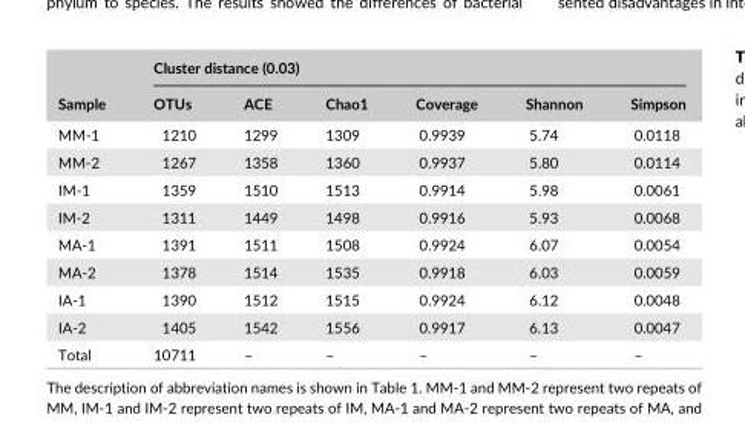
<table><thead><tr><td rowspan="2">Sample</td><td colspan="6">Cluster distance (0.03)</td></tr><tr><td>OTUs</td><td>ACE</td><td>Chao1</td><td>Coverage</td><td>Shannon</td><td>Simpson</td></tr></thead><tbody><tr><td>MM- 1</td><td>1210</td><td>1299</td><td>1309</td><td>0.9939</td><td>5.74</td><td>0.0118</td></tr><tr><td>MM- 2</td><td>1267</td><td>1358</td><td>1360</td><td>0.9937</td><td>5.80</td><td>0.0114</td></tr><tr><td>IM- 1</td><td>1359</td><td>1510</td><td>1513</td><td>0.9914</td><td>5.98</td><td>0.0061</td></tr><tr><td>IM- 2</td><td>1311</td><td>1449</td><td>1498</td><td>0.9916</td><td>5.93</td><td>0.0068</td></tr><tr><td>MA- 1</td><td>1391</td><td>1511</td><td>1508</td><td>0.9924</td><td>6.07</td><td>0.0054</td></tr><tr><td>MA- 2</td><td>1378</td><td>1514</td><td>1535</td><td>0.9918</td><td>6.03</td><td>0.0059</td></tr><tr><td>IA- 1</td><td>1390</td><td>1512</td><td>1515</td><td>0.9924</td><td>6.12</td><td>0.0048</td></tr><tr><td>IA- 2</td><td>1405</td><td>1542</td><td>1556</td><td>0.9917</td><td>6.13</td><td>0.0047</td></tr><tr><td>Total</td><td>10711</td><td>–</td><td>–</td><td>–</td><td>–</td><td>–</td></tr></tbody></table>